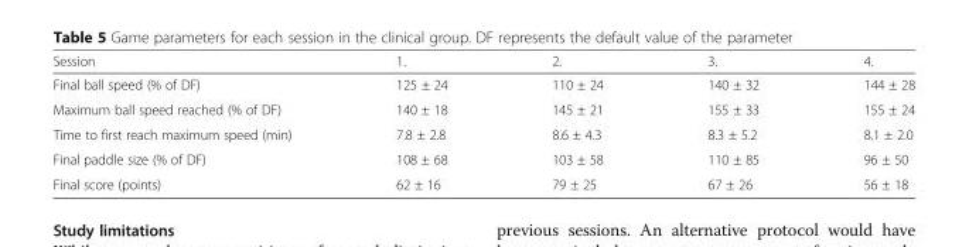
<table><thead><tr><td>Session</td><td>1.</td><td>2.</td><td>3.</td><td>4.</td></tr></thead><tbody><tr><td>Final ball speed (% of DF)</td><td>125 ± 24</td><td>110 ± 24</td><td>140 ± 32</td><td>144 ± 28</td></tr><tr><td>Maximum ball speed reached (% of DF)</td><td>140 ± 18</td><td>145 ± 21</td><td>155 ± 33</td><td>155 ± 24</td></tr><tr><td>Time to first reach maximum speed (min)</td><td>7.8 ± 2.8</td><td>8.6 ± 4.3</td><td>8.3 ± 5.2</td><td>8.1 ± 2.0</td></tr><tr><td>Final paddle size (% of DF)</td><td>108 ± 68</td><td>103 ± 58</td><td>110 ± 85</td><td>96 ± 50</td></tr><tr><td>Final score (points)</td><td>62 ± 16</td><td>79 ± 25</td><td>67 ± 26</td><td>56 ± 18</td></tr></tbody></table>